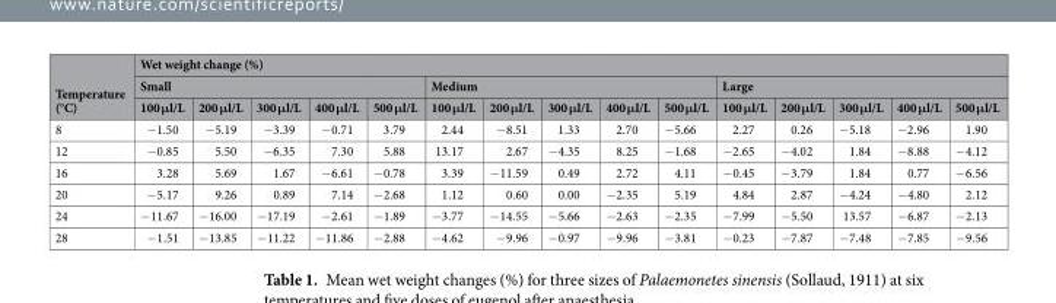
<table><thead><tr><td rowspan="3">Temperature (°C)</td><td colspan="15">Wet weight change (%)</td></tr><tr><td colspan="5">Small</td><td colspan="5">Medium</td><td colspan="5">Large</td></tr><tr><td>100 μl/L</td><td>200 μl/L</td><td>300 μl/L</td><td>400 μl/L</td><td>500 μl/L</td><td>100 μl/L</td><td>200 μl/L</td><td>300 μl/L</td><td>400 μl/L</td><td>500 μl/L</td><td>100 μl/L</td><td>200 μl/L</td><td>300 μl/L</td><td>400 μl/L</td><td>500 μl/L</td></tr></thead><tbody><tr><td>8</td><td>−1.50</td><td>−5.19</td><td>−3.39</td><td>−0.71</td><td>3.79</td><td>2.44</td><td>−8.51</td><td>1.33</td><td>2.70</td><td>−5.66</td><td>2.27</td><td>0.26</td><td>−5.18</td><td>−2.96</td><td>1.90</td></tr><tr><td>12</td><td>−0.85</td><td>5.50</td><td>−6.35</td><td>7.30</td><td>5.88</td><td>13.17</td><td>2.67</td><td>−4.35</td><td>8.25</td><td>−1.68</td><td>−2.65</td><td>−4.02</td><td>1.84</td><td>−8.88</td><td>−4.12</td></tr><tr><td>16</td><td>3.28</td><td>5.69</td><td>1.67</td><td>−6.61</td><td>−0.78</td><td>3.39</td><td>−11.59</td><td>0.49</td><td>2.72</td><td>4.11</td><td>−0.45</td><td>−3.79</td><td>1.84</td><td>0.77</td><td>−6.56</td></tr><tr><td>20</td><td>−5.17</td><td>9.26</td><td>0.89</td><td>7.14</td><td>−2.68</td><td>1.12</td><td>0.60</td><td>0.00</td><td>−2.35</td><td>5.19</td><td>4.84</td><td>2.87</td><td>−4.24</td><td>−4.80</td><td>2.12</td></tr><tr><td>24</td><td>−11.67</td><td>−16.00</td><td>−17.19</td><td>−2.61</td><td>−1.89</td><td>−3.77</td><td>−14.55</td><td>−5.66</td><td>−2.63</td><td>−2.35</td><td>−7.99</td><td>−5.50</td><td>13.57</td><td>−6.87</td><td>−2.13</td></tr><tr><td>28</td><td>−1.51</td><td>−13.85</td><td>−11.22</td><td>−11.86</td><td>−2.88</td><td>−4.62</td><td>−9.96</td><td>−0.97</td><td>−9.96</td><td>−3.81</td><td>−0.23</td><td>−7.87</td><td>−7.48</td><td>−7.85</td><td>−9.56</td></tr></tbody></table>